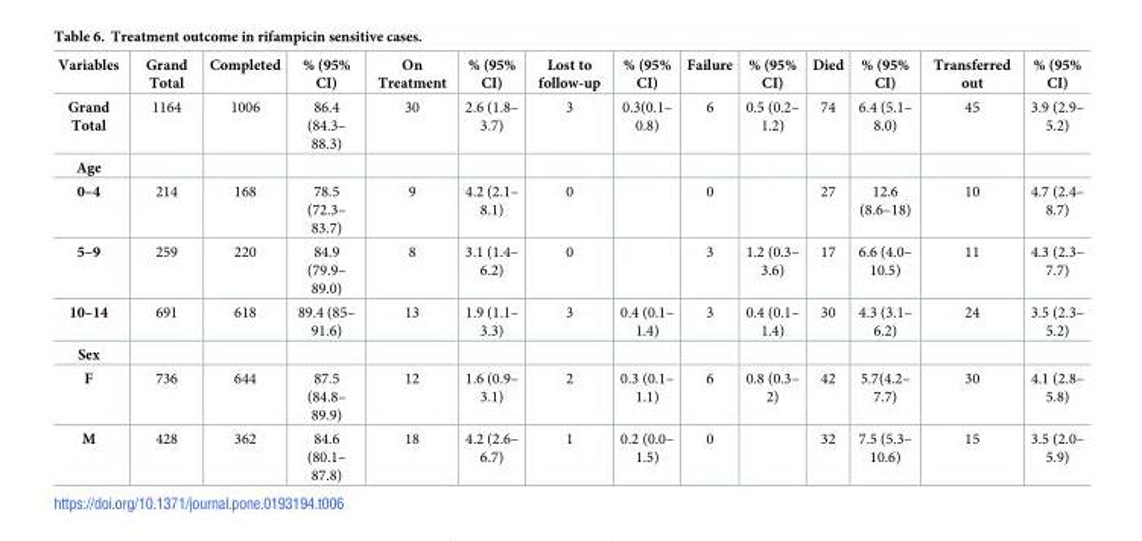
<table><thead><tr><td>Variables</td><td>Grand Total</td><td>Completed</td><td>% (95% CI)</td><td>On Treatment</td><td>% (95% CI)</td><td>Lost to follow-up</td><td>% (95% CI)</td><td>Failure</td><td>% (95% CI)</td><td>Died</td><td>% (95% CI)</td><td>Transferred out</td><td>% (95% CI)</td></tr></thead><tbody><tr><td>Grand Total</td><td>1164</td><td>1006</td><td>86.4 (84.3– 88.3)</td><td>30</td><td>2.6 (1.8– 3.7)</td><td>3</td><td>0.3(0.1– 0.8)</td><td>6</td><td>0.5 (0.2– 1.2)</td><td>74</td><td>6.4 (5.1– 8.0)</td><td>45</td><td>3.9 (2.9– 5.2)</td></tr><tr><td colspan="14">Age</td></tr><tr><td>0–4</td><td>214</td><td>168</td><td>78.5 (72.3– 83.7)</td><td>9</td><td>4.2 (2.1– 8.1)</td><td>0</td><td></td><td>0</td><td></td><td>27</td><td>12.6 (8.6–18)</td><td>10</td><td>4.7 (2.4– 8.7)</td></tr><tr><td>5–9</td><td>259</td><td>220</td><td>84.9 (79.9– 89.0)</td><td>8</td><td>3.1 (1.4– 6.2)</td><td>0</td><td></td><td>3</td><td>1.2 (0.3– 3.6)</td><td>17</td><td>6.6 (4.0– 10.5)</td><td>11</td><td>4.3 (2.3– 7.7)</td></tr><tr><td>10–14</td><td>691</td><td>618</td><td>89.4 (85– 91.6)</td><td>13</td><td>1.9 (1.1– 3.3)</td><td>3</td><td>0.4 (0.1– 1.4)</td><td>3</td><td>0.4 (0.1– 1.4)</td><td>30</td><td>4.3 (3.1– 6.2)</td><td>24</td><td>3.5 (2.3– 5.2)</td></tr><tr><td colspan="14">Sex</td></tr><tr><td>F</td><td>736</td><td>644</td><td>87.5 (84.8– 89.9)</td><td>12</td><td>1.6 (0.9– 3.1)</td><td>2</td><td>0.3 (0.1– 1.1)</td><td>6</td><td>0.8 (0.3– 2)</td><td>42</td><td>5.7(4.2– 7.7)</td><td>30</td><td>4.1 (2.8– 5.8)</td></tr><tr><td>M</td><td>428</td><td>362</td><td>84.6 (80.1– 87.8)</td><td>18</td><td>4.2 (2.6– 6.7)</td><td>1</td><td>0.2 (0.0– 1.5)</td><td>0</td><td></td><td>32</td><td>7.5 (5.3– 10.6)</td><td>15</td><td>3.5 (2.0– 5.9)</td></tr></tbody></table>